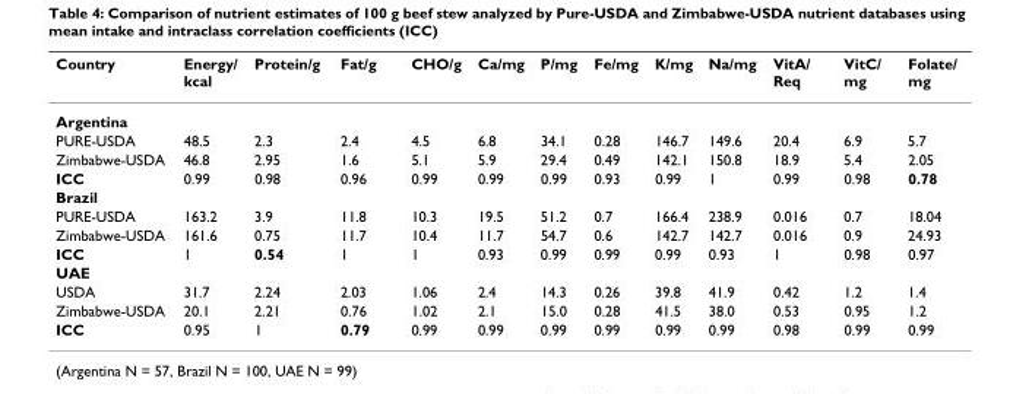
<table><thead><tr><td>Country</td><td>Energy/ kcal</td><td>Protein/g</td><td>Fat/g</td><td>CHO/g</td><td>Ca/mg</td><td>P/mg</td><td>Fe/mg</td><td>K/mg</td><td>Na/mg</td><td>VitA/ Req</td><td>VitC/ mg</td><td>Folate/ mg</td></tr></thead><tbody><tr><td colspan="13">Argentina</td></tr><tr><td>PURE-USDA</td><td>48.5</td><td>2.3</td><td>2.4</td><td>4.5</td><td>6.8</td><td>34.1</td><td>0.28</td><td>146.7</td><td>149.6</td><td>20.4</td><td>6.9</td><td>5.7</td></tr><tr><td>Zimbabwe-USDA</td><td>46.8</td><td>2.95</td><td>1.6</td><td>5.1</td><td>5.9</td><td>29.4</td><td>0.49</td><td>142.1</td><td>150.8</td><td>18.9</td><td>5.4</td><td>2.05</td></tr><tr><td>ICC</td><td>0.99</td><td>0.98</td><td>0.96</td><td>0.99</td><td>0.99</td><td>0.99</td><td>0.93</td><td>0.99</td><td>1</td><td>0.99</td><td>0.98</td><td>0.78</td></tr><tr><td colspan="13">Brazil</td></tr><tr><td>PURE-USDA</td><td>163.2</td><td>3.9</td><td>11.8</td><td>10.3</td><td>19.5</td><td>51.2</td><td>0.7</td><td>166.4</td><td>238.9</td><td>0.016</td><td>0.7</td><td>18.04</td></tr><tr><td>Zimbabwe-USDA</td><td>161.6</td><td>0.75</td><td>11.7</td><td>10.4</td><td>11.7</td><td>54.7</td><td>0.6</td><td>142.7</td><td>142.7</td><td>0.016</td><td>0.9</td><td>24.93</td></tr><tr><td>ICC</td><td>1</td><td>0.54</td><td>1</td><td>1</td><td>0.93</td><td>0.99</td><td>0.99</td><td>0.99</td><td>0.93</td><td>1</td><td>0.98</td><td>0.97</td></tr><tr><td colspan="13">UAE</td></tr><tr><td>USDA</td><td>31.7</td><td>2.24</td><td>2.03</td><td>1.06</td><td>2.4</td><td>14.3</td><td>0.26</td><td>39.8</td><td>41.9</td><td>0.42</td><td>1.2</td><td>1.4</td></tr><tr><td>Zimbabwe-USDA</td><td>20.1</td><td>2.21</td><td>0.76</td><td>1.02</td><td>2.1</td><td>15.0</td><td>0.28</td><td>41.5</td><td>38.0</td><td>0.53</td><td>0.95</td><td>1.2</td></tr><tr><td>ICC</td><td>0.95</td><td>1</td><td>0.79</td><td>0.99</td><td>0.99</td><td>0.99</td><td>0.99</td><td>0.99</td><td>0.99</td><td>0.98</td><td>0.99</td><td>0.99</td></tr></tbody></table>